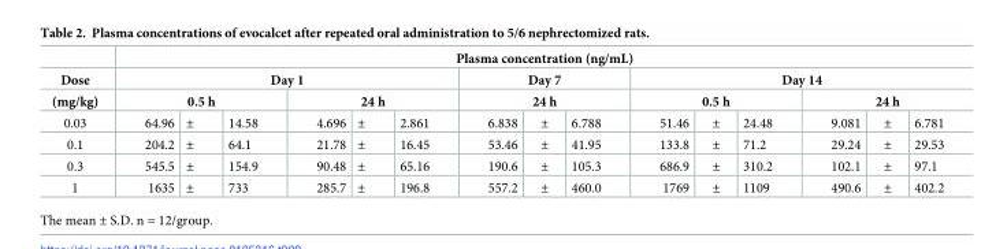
<table><thead><tr><td rowspan="4">Dose (mg/kg) 0.03</td><td colspan="15">Plasma concentration (ng/mL)</td></tr><tr><td colspan="6">Day 1</td><td rowspan="2" colspan="3">Day 7 24 h</td><td colspan="6">Day 14</td></tr><tr><td colspan="3">0.5 h</td><td colspan="3">24 h</td><td colspan="3">0.5 h</td><td colspan="3">24 h</td></tr><tr><td>64.96</td><td>±</td><td>14.58</td><td>4.696</td><td>±</td><td>2.861</td><td>6.838</td><td>±</td><td>6.788</td><td>51.46</td><td>±</td><td>24.48</td><td>9.081</td><td>±</td><td>6.781</td></tr></thead><tbody><tr><td>0.1</td><td>204.2</td><td>±</td><td>64.1</td><td>21.78</td><td>±</td><td>16.45</td><td>53.46</td><td>±</td><td>41.95</td><td>133.8</td><td>±</td><td>71.2</td><td>29.24</td><td>±</td><td>29.53</td></tr><tr><td>0.3</td><td>545.5</td><td>±</td><td>154.9</td><td>90.48</td><td>±</td><td>65.16</td><td>190.6</td><td>±</td><td>105.3</td><td>686.9</td><td>±</td><td>310.2</td><td>102.1</td><td>±</td><td>97.1</td></tr><tr><td>1</td><td>1635</td><td>±</td><td>733</td><td>285.7</td><td>±</td><td>196.8</td><td>557.2</td><td>±</td><td>460.0</td><td>1769</td><td>±</td><td>1109</td><td>490.6</td><td>±</td><td>402.2</td></tr></tbody></table>